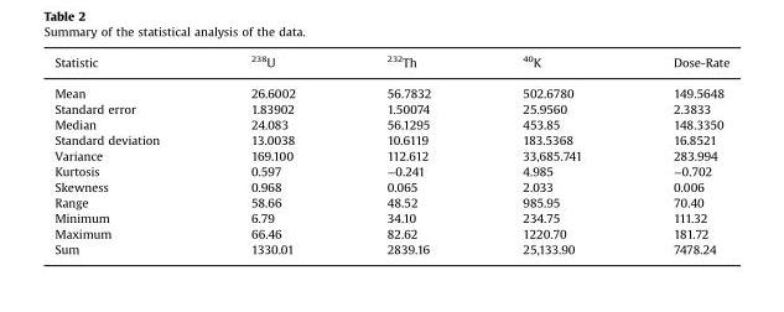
<table><thead><tr><td>Statistic</td><td><sup>238</sup>U</td><td><sup>232</sup>Th</td><td><sup>40</sup>K</td><td>Dose-Rate</td></tr></thead><tbody><tr><td>Mean</td><td>26.6002</td><td>56.7832</td><td>502.6780</td><td>149.5648</td></tr><tr><td>Standard error</td><td>1.83902</td><td>1.50074</td><td>25.9560</td><td>2.3833</td></tr><tr><td>Median</td><td>24.083</td><td>56.1295</td><td>453.85</td><td>148.3350</td></tr><tr><td>Standard deviation</td><td>13.0038</td><td>10.6119</td><td>183.5368</td><td>16.8521</td></tr><tr><td>Variance</td><td>169.100</td><td>112.612</td><td>33,685.741</td><td>283.994</td></tr><tr><td>Kurtosis</td><td>0.597</td><td>−0.241</td><td>4.985</td><td>−0.702</td></tr><tr><td>Skewness</td><td>0.968</td><td>0.065</td><td>2.033</td><td>0.006</td></tr><tr><td>Range</td><td>58.66</td><td>48.52</td><td>985.95</td><td>70.40</td></tr><tr><td>Minimum</td><td>6.79</td><td>34.10</td><td>234.75</td><td>111.32</td></tr><tr><td>Maximum</td><td>66.46</td><td>82.62</td><td>1220.70</td><td>181.72</td></tr><tr><td>Sum</td><td>1330.01</td><td>2839.16</td><td>25,133.90</td><td>7478.24</td></tr></tbody></table>